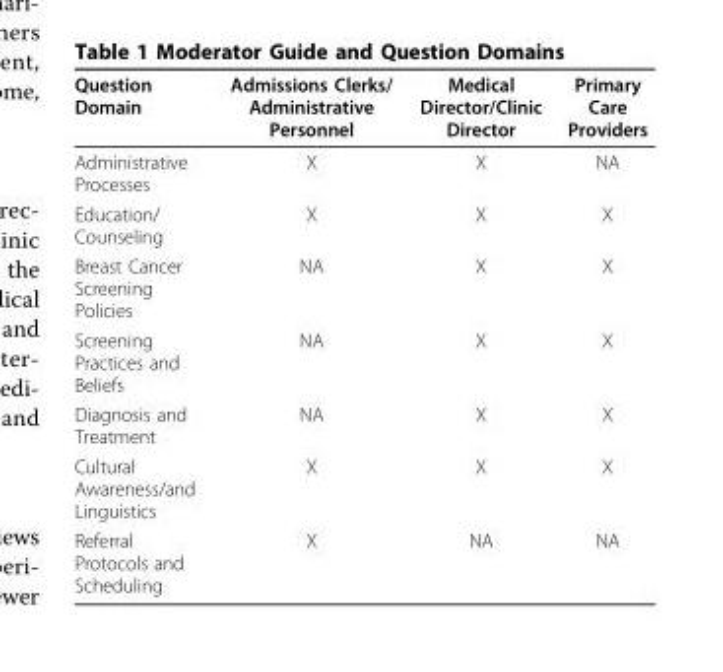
<table><thead><tr><td>Question Domain</td><td>Admissions Clerks/ Administrative Personnel</td><td>Medical Director/Clinic Director</td><td>Primary Care Providers</td></tr></thead><tbody><tr><td>Administrative Processes</td><td>X</td><td>X</td><td>NA</td></tr><tr><td>Education/ Counseling</td><td>X</td><td>X</td><td>X</td></tr><tr><td>Breast Cancer Screening Policies</td><td>NA</td><td>X</td><td>X</td></tr><tr><td>Screening Practices and Beliefs</td><td>NA</td><td>X</td><td>X</td></tr><tr><td>Diagnosis and Treatment</td><td>NA</td><td>X</td><td>X</td></tr><tr><td>Cultural Awareness/and Linguistics</td><td>X</td><td>X</td><td>X</td></tr><tr><td>Referral Protocols and Scheduling</td><td>X</td><td>NA</td><td>NA</td></tr></tbody></table>